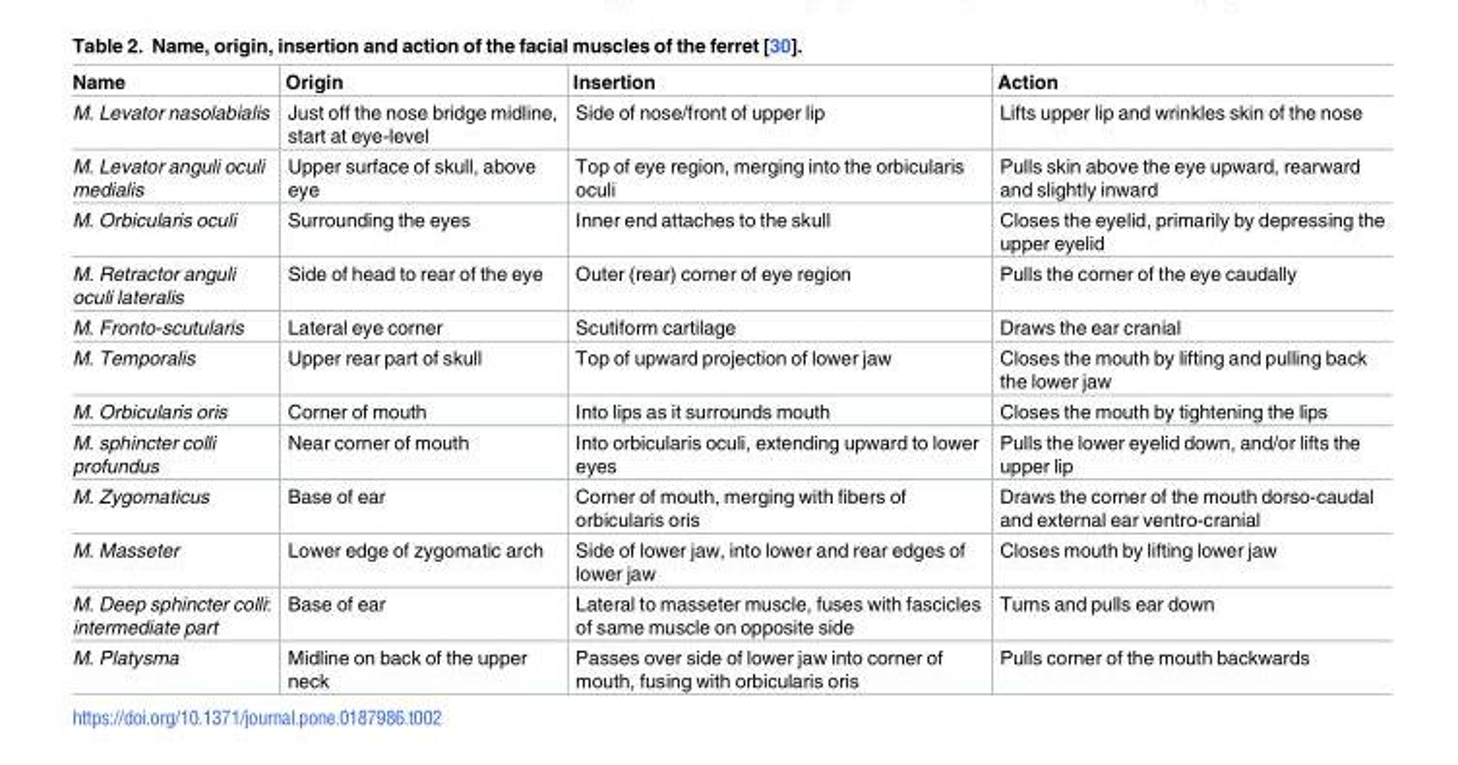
<table><thead><tr><td>Name</td><td>Origin</td><td>Insertion</td><td>Action</td></tr></thead><tbody><tr><td>M. Levator nasolabialis</td><td>Just off the nose bridge midline, start at eye-level</td><td>Side of nose/front of upper lip</td><td>Lifts upper lip and wrinkles skin of the nose</td></tr><tr><td>M. Levator anguli oculi medialis</td><td>Upper surface of skull, above eye</td><td>Top of eye region, merging into the orbicularis oculi</td><td>Pulls skin above the eye upward, rearward and slightly inward</td></tr><tr><td>M. Orbicularis oculi</td><td>Surrounding the eyes</td><td>Inner end attaches to the skull</td><td>Closes the eyelid, primarily by depressing the upper eyelid</td></tr><tr><td>M. Retractor anguli oculi lateralis</td><td>Side of head to rear of the eye</td><td>Outer (rear) corner of eye region</td><td>Pulls the corner of the eye caudally</td></tr><tr><td>M. Fronto-scutularis</td><td>Lateral eye corner</td><td>Scutiform cartilage</td><td>Draws the ear cranial</td></tr><tr><td>M. Temporalis</td><td>Upper rear part of skull</td><td>Top of upward projection of lower jaw</td><td>Closes the mouth by lifting and pulling back the lower jaw</td></tr><tr><td>M. Orbicularis oris</td><td>Corner of mouth</td><td>Into lips as it surrounds mouth</td><td>Closes the mouth by tightening the lips</td></tr><tr><td>M. sphincter colli profundus</td><td>Near corner of mouth</td><td>Into orbicularis oculi, extending upward to lower eyes</td><td>Pulls the lower eyelid down, and/or lifts the upper lip</td></tr><tr><td>M. Zygomaticus</td><td>Base of ear</td><td>Corner of mouth, merging with fibers of orbicularis oris</td><td>Draws the corner of the mouth dorso-caudal and external ear ventro-cranial</td></tr><tr><td>M. Masseter</td><td>Lower edge of zygomatic arch</td><td>Side of lower jaw, into lower and rear edges of lower jaw</td><td>Closes mouth by lifting lower jaw</td></tr><tr><td>M. Deep sphincter colli: intermediate part</td><td>Base of ear</td><td>Lateral to masseter muscle, fuses with fascicles of same muscle on opposite side</td><td>Turns and pulls ear down</td></tr><tr><td>M. Platysma</td><td>Midline on back of the upper neck</td><td>Passes over side of lower jaw into corner of mouth, fusing with orbicularis oris</td><td>Pulls corner of the mouth backwards</td></tr></tbody></table>